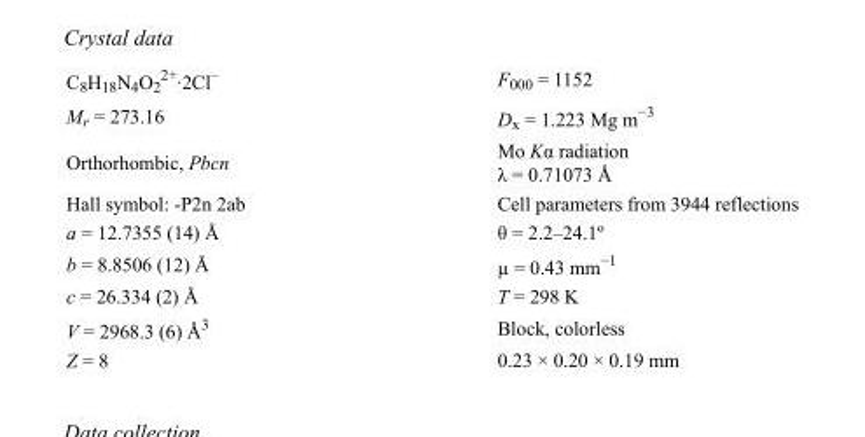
<table><tbody><tr><td>C<sub>8</sub>H<sub>18</sub>N<sub>4</sub>O<sub>2</sub> <sup>2+</sup>·2Cl<sup>–</sup></td><td>F000 = 1152</td></tr><tr><td>M<sub>r</sub> = 273.16</td><td>D<sub>x</sub> = 1.223 Mg m<sup>−3</sup></td></tr><tr><td>Orthorhombic, Pbcn</td><td>Mo Kα radiation λ = 0.71073 Å</td></tr><tr><td>Hall symbol: -P2n 2ab</td><td>Cell parameters from 3944 reflections</td></tr><tr><td>a = 12.7355 (14) Å</td><td>θ = 2.2–24.1º</td></tr><tr><td>b = 8.8506 (12) Å</td><td>µ = 0.43 mm<sup>−1</sup></td></tr><tr><td>c = 26.334 (2) Å</td><td>T = 298 K</td></tr><tr><td>V = 2968.3 (6) Å<sup>3</sup></td><td>Block, colorless</td></tr><tr><td>Z = 8</td><td>0.23 × 0.20 × 0.19 mm</td></tr></tbody></table>